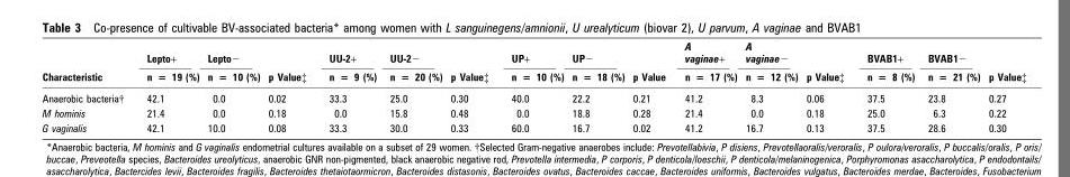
<table><thead><tr><td rowspan="2">Characteristic</td><td rowspan="2">Lepto+ n = 19 (%)</td><td rowspan="2">Lepto− n = 10 (%)</td><td rowspan="2">p Value‡</td><td rowspan="2">UU-2+ n = 9 (%)</td><td rowspan="2">UU-2− n = 20 (%)</td><td rowspan="2">p Value‡</td><td rowspan="2">UP+ n = 10 (%)</td><td rowspan="2">UP− n = 18 (%)</td><td rowspan="2">p Value</td><td rowspan="2">A vaginae+ n = 17 (%)</td><td rowspan="2">A vaginae− n = 12 (%)</td><td rowspan="2">p Value‡</td><td rowspan="2">BVAB1+ n = 8 (%)</td><td rowspan="2">BVAB1− n = 21 (%)</td><td rowspan="2">p Value‡</td></tr><tr></tr></thead><tbody><tr><td>Anaerobic bacteria†</td><td>42.1</td><td>0.0</td><td>0.02</td><td>33.3</td><td>25.0</td><td>0.30</td><td>40.0</td><td>22.2</td><td>0.21</td><td>41.2</td><td>8.3</td><td>0.06</td><td>37.5</td><td>23.8</td><td>0.27</td></tr><tr><td>M hominis</td><td>21.4</td><td>0.0</td><td>0.18</td><td>0.0</td><td>15.8</td><td>0.48</td><td>0.0</td><td>18.8</td><td>0.28</td><td>21.4</td><td>0.0</td><td>0.18</td><td>25.0</td><td>6.3</td><td>0.22</td></tr><tr><td>G vaginalis</td><td>42.1</td><td>10.0</td><td>0.08</td><td>33.3</td><td>30.0</td><td>0.33</td><td>60.0</td><td>16.7</td><td>0.02</td><td>41.2</td><td>16.7</td><td>0.13</td><td>37.5</td><td>28.6</td><td>0.30</td></tr></tbody></table>